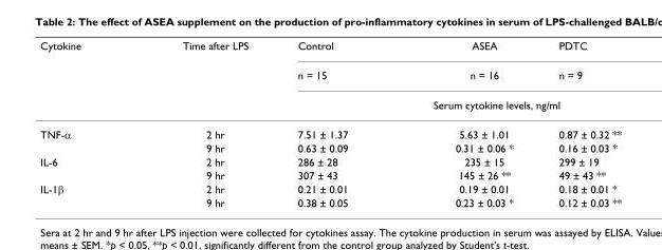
<table><thead><tr><td rowspan="3">Cytokine</td><td rowspan="3">Time after LPS</td><td rowspan="2">Control n = 15</td><td rowspan="2">ASEA n = 16</td><td rowspan="2">PDTC n = 9</td></tr><tr></tr><tr><td colspan="3">Serum cytokine levels, ng/ml</td></tr></thead><tbody><tr><td rowspan="2">TNF-α</td><td>2 hr</td><td>7.51 ± 1.37</td><td>5.63 ± 1.01</td><td>0.87 ± 0.32 **</td></tr><tr><td>9 hr</td><td>0.63 ± 0.09</td><td>0.31 ± 0.06 *</td><td>0.16 ± 0.03 *</td></tr><tr><td rowspan="2">IL-6</td><td>2 hr</td><td>286 ± 28</td><td>235 ± 15</td><td>299 ± 19</td></tr><tr><td>9 hr</td><td>307 ± 43</td><td>145 ± 26 **</td><td>49 ± 43 **</td></tr><tr><td rowspan="2">IL-1β</td><td>2 hr</td><td>0.21 ± 0.01</td><td>0.19 ± 0.01</td><td>0.18 ± 0.01 *</td></tr><tr><td>9 hr</td><td>0.38 ± 0.05</td><td>0.23 ± 0.03 *</td><td>0.12 ± 0.03 **</td></tr></tbody></table>